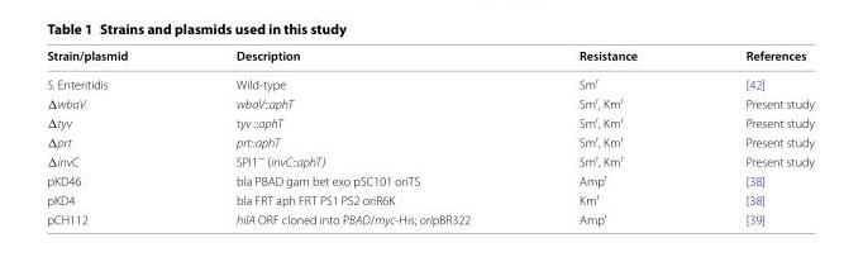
<table><thead><tr><td>Strain/plasmid</td><td>Description</td><td>Resistance</td><td>References</td></tr></thead><tbody><tr><td>S. Enteritidis</td><td>Wild-type</td><td>Sm<sup>r</sup></td><td>[42]</td></tr><tr><td>∆wbaV</td><td>wbaV::aphT</td><td>Sm<sup>r</sup>, Km<sup>r</sup></td><td>Present study</td></tr><tr><td>∆tyv</td><td>tyv ::aphT</td><td>Sm<sup>r</sup>, Km<sup>r</sup></td><td>Present study</td></tr><tr><td>∆prt</td><td>prt::aphT</td><td>Sm<sup>r</sup>, Km<sup>r</sup></td><td>Present study</td></tr><tr><td>∆invC</td><td>SPI1<sup>−</sup> (invC::aphT)</td><td>Sm<sup>r</sup>, Km<sup>r</sup></td><td>Present study</td></tr><tr><td>pKD46</td><td>bla PBAD gam bet exo pSC101 oriTS</td><td>Amp<sup>r</sup></td><td>[38]</td></tr><tr><td>pKD4</td><td>bla FRT aph FRT PS1 PS2 oriR6K</td><td>Km<sup>r</sup></td><td>[38]</td></tr><tr><td>pCH112</td><td>hilA ORF cloned into PBAD/myc-His; oripBR322</td><td>Amp<sup>r</sup></td><td>[39]</td></tr></tbody></table>